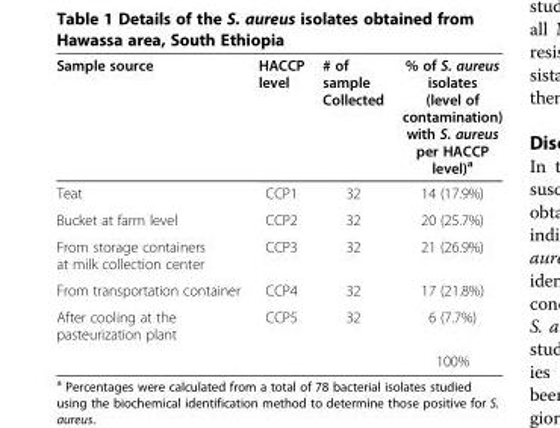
<table><thead><tr><td>Sample source</td><td>HACCP level</td><td># of sample Collected</td><td>% of S. aureus isolates (level of contamination) with S. aureus per HACCP level)<sup>a</sup></td></tr></thead><tbody><tr><td>Teat</td><td>CCP1</td><td>32</td><td>14 (17.9%)</td></tr><tr><td>Bucket at farm level</td><td>CCP2</td><td>32</td><td>20 (25.7%)</td></tr><tr><td>From storage containers at milk collection center</td><td>CCP3</td><td>32</td><td>21 (26.9%)</td></tr><tr><td>From transportation container</td><td>CCP4</td><td>32</td><td>17 (21.8%)</td></tr><tr><td rowspan="2">After cooling at the pasteurization plant</td><td>CCP5</td><td>32</td><td>6 (7.7%)</td></tr><tr><td></td><td></td><td>100%</td></tr></tbody></table>